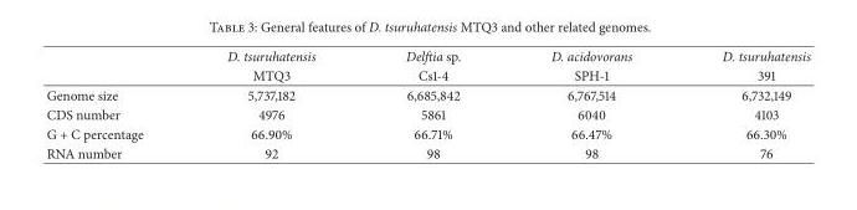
<table><thead><tr><td rowspan="2"></td><td rowspan="2">D. tsuruhatensis MTQ3</td><td rowspan="2">Delftia sp. Cs1-4</td><td rowspan="2">D. acidovorans SPH-1</td><td rowspan="2">D. tsuruhatensis 391</td></tr><tr></tr></thead><tbody><tr><td>Genome size</td><td>5,737,182</td><td>6,685,842</td><td>6,767,514</td><td>6,732,149</td></tr><tr><td>CDS number</td><td>4976</td><td>5861</td><td>6040</td><td>4103</td></tr><tr><td>G + C percentage</td><td>66.90%</td><td>66.71%</td><td>66.47%</td><td>66.30%</td></tr><tr><td>RNA number</td><td>92</td><td>98</td><td>98</td><td>76</td></tr></tbody></table>